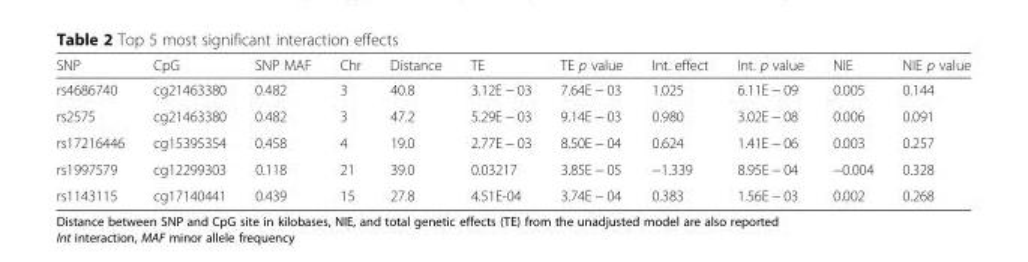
<table><thead><tr><td>SNP</td><td>CpG</td><td>SNP MAF</td><td>Chr</td><td>Distance</td><td>TE</td><td>TE p value</td><td>Int. effect</td><td>Int. p value</td><td>NIE</td><td>NIE p value</td></tr></thead><tbody><tr><td>rs4686740</td><td>cg21463380</td><td>0.482</td><td>3</td><td>40.8</td><td>3.12E − 03</td><td>7.64E − 03</td><td>1.025</td><td>6.11E − 09</td><td>0.005</td><td>0.144</td></tr><tr><td>rs2575</td><td>cg21463380</td><td>0.482</td><td>3</td><td>47.2</td><td>5.29E − 03</td><td>9.14E − 03</td><td>0.980</td><td>3.02E − 08</td><td>0.006</td><td>0.091</td></tr><tr><td>rs17216446</td><td>cg15395354</td><td>0.458</td><td>4</td><td>19.0</td><td>2.77E − 03</td><td>8.50E − 04</td><td>0.624</td><td>1.41E − 06</td><td>0.003</td><td>0.257</td></tr><tr><td>rs1997579</td><td>cg12299303</td><td>0.118</td><td>21</td><td>39.0</td><td>0.03217</td><td>3.85E − 05</td><td>−1.339</td><td>8.95E − 04</td><td>−0.004</td><td>0.328</td></tr><tr><td>rs1143115</td><td>cg17140441</td><td>0.439</td><td>15</td><td>27.8</td><td>4.51E-04</td><td>3.74E − 04</td><td>0.383</td><td>1.56E − 03</td><td>0.002</td><td>0.268</td></tr></tbody></table>